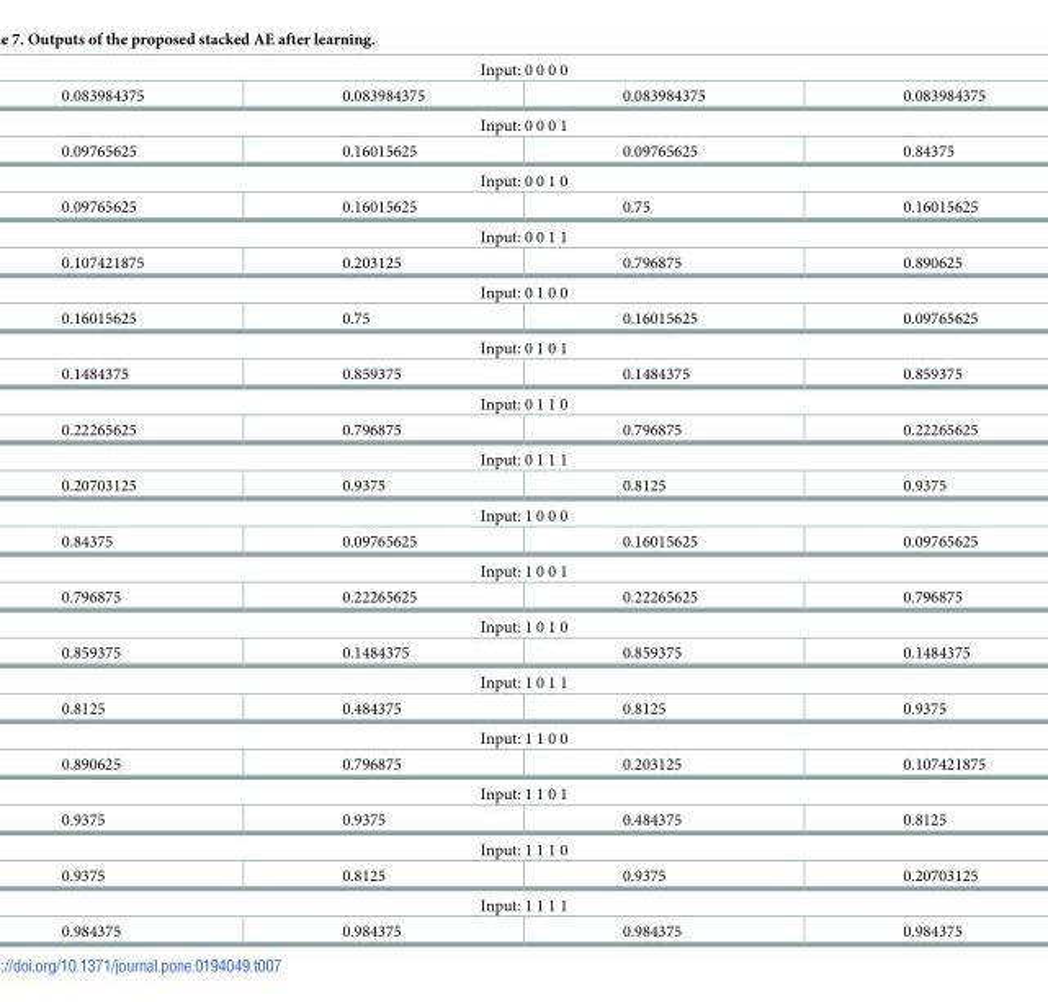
<table><tbody><tr><td colspan="4">Input: 0 0 0 0</td></tr><tr><td>0.083984375</td><td>0.083984375</td><td>0.083984375</td><td>0.083984375</td></tr><tr><td colspan="4">Input: 0 0 0 1</td></tr><tr><td>0.09765625</td><td>0.16015625</td><td>0.09765625</td><td>0.84375</td></tr><tr><td colspan="4">Input: 0 0 1 0</td></tr><tr><td>0.09765625</td><td>0.16015625</td><td>0.75</td><td>0.16015625</td></tr><tr><td colspan="4">Input: 0 0 1 1</td></tr><tr><td>0.107421875</td><td>0.203125</td><td>0.796875</td><td>0.890625</td></tr><tr><td colspan="4">Input: 0 1 0 0</td></tr><tr><td>0.16015625</td><td>0.75</td><td>0.16015625</td><td>0.09765625</td></tr><tr><td colspan="4">Input: 0 1 0 1</td></tr><tr><td>0.1484375</td><td>0.859375</td><td>0.1484375</td><td>0.859375</td></tr><tr><td colspan="4">Input: 0 1 1 0</td></tr><tr><td>0.22265625</td><td>0.796875</td><td>0.796875</td><td>0.22265625</td></tr><tr><td colspan="4">Input: 0 1 1 1</td></tr><tr><td>0.20703125</td><td>0.9375</td><td>0.8125</td><td>0.9375</td></tr><tr><td colspan="4">Input: 1 0 0 0</td></tr><tr><td>0.84375</td><td>0.09765625</td><td>0.16015625</td><td>0.09765625</td></tr><tr><td colspan="4">Input: 1 0 0 1</td></tr><tr><td>0.796875</td><td>0.22265625</td><td>0.22265625</td><td>0.796875</td></tr><tr><td colspan="4">Input: 1 0 1 0</td></tr><tr><td>0.859375</td><td>0.1484375</td><td>0.859375</td><td>0.1484375</td></tr><tr><td colspan="4">Input: 1 0 1 1</td></tr><tr><td>0.8125</td><td>0.484375</td><td>0.8125</td><td>0.9375</td></tr><tr><td colspan="4">Input: 1 1 0 0</td></tr><tr><td>0.890625</td><td>0.796875</td><td>0.203125</td><td>0.107421875</td></tr><tr><td colspan="4">Input: 1 1 0 1</td></tr><tr><td>0.9375</td><td>0.9375</td><td>0.484375</td><td>0.8125</td></tr><tr><td colspan="4">Input: 1 1 1 0</td></tr><tr><td>0.9375</td><td>0.8125</td><td>0.9375</td><td>0.20703125</td></tr><tr><td colspan="4">Input: 1 1 1 1</td></tr><tr><td>0.984375</td><td>0.984375</td><td>0.984375</td><td>0.984375</td></tr></tbody></table>